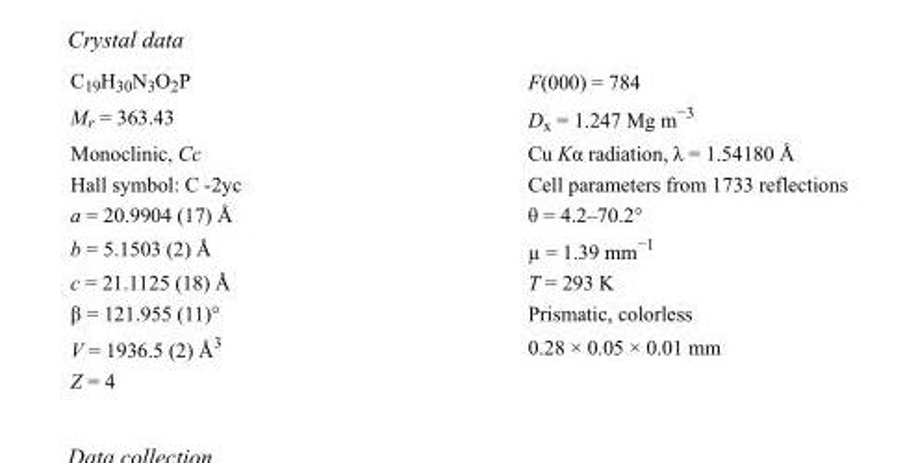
<table><tbody><tr><td>C<sub>19</sub>H<sub>30</sub>N<sub>3</sub>O<sub>2</sub>P</td><td>F(000) = 784</td></tr><tr><td>M<sub>r</sub> = 363.43</td><td>D<sub>x</sub> = 1.247 Mg m<sup>−3</sup></td></tr><tr><td>Monoclinic, Cc</td><td>Cu Kα radiation, λ = 1.54180 Å</td></tr><tr><td>Hall symbol: C -2yc</td><td>Cell parameters from 1733 reflections</td></tr><tr><td>a = 20.9904 (17) Å</td><td>θ = 4.2–70.2°</td></tr><tr><td>b = 5.1503 (2) Å</td><td>µ = 1.39 mm<sup>−1</sup></td></tr><tr><td>c = 21.1125 (18) Å</td><td>T = 293 K</td></tr><tr><td>β = 121.955 (11)°</td><td>Prismatic, colorless</td></tr><tr><td>V = 1936.5 (2) Å<sup>3</sup></td><td>0.28 × 0.05 × 0.01 mm</td></tr><tr><td>Z = 4</td><td></td></tr></tbody></table>